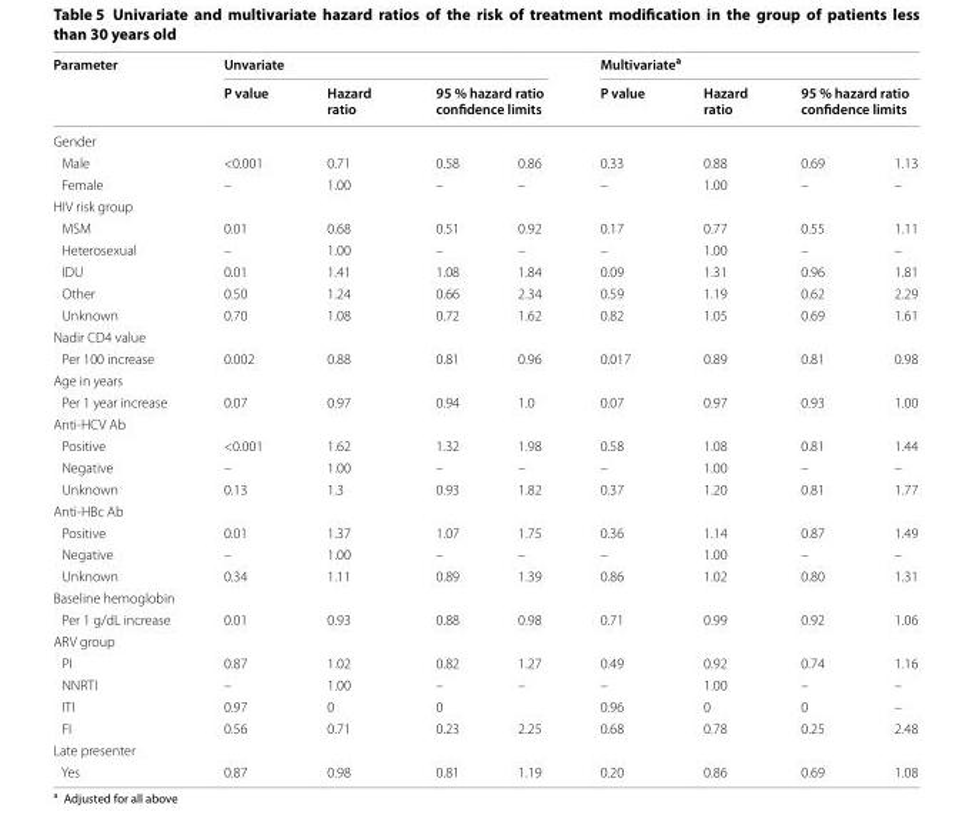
<table><thead><tr><td rowspan="2">Parameter</td><td colspan="4">Unvariate</td><td colspan="4">Multivariate<sup>a</sup></td></tr><tr><td>P value</td><td>Hazard ratio</td><td colspan="2">95 % hazard ratio confidence limits</td><td>P value</td><td>Hazard ratio</td><td colspan="2">95 % hazard ratio confidence limits</td></tr><tr><td colspan="9">Gender</td></tr><tr><td>Male</td><td>&lt;0.001</td><td>0.71</td><td>0.58</td><td>0.86</td><td>0.33</td><td>0.88</td><td>0.69</td><td>1.13</td></tr></thead><tbody><tr><td>Female</td><td>–</td><td>1.00</td><td>–</td><td>–</td><td>–</td><td>1.00</td><td>–</td><td>–</td></tr><tr><td colspan="9">HIV risk group</td></tr><tr><td>MSM</td><td>0.01</td><td>0.68</td><td>0.51</td><td>0.92</td><td>0.17</td><td>0.77</td><td>0.55</td><td>1.11</td></tr><tr><td>Heterosexual</td><td>–</td><td>1.00</td><td>–</td><td>–</td><td>–</td><td>1.00</td><td>–</td><td>–</td></tr><tr><td>IDU</td><td>0.01</td><td>1.41</td><td>1.08</td><td>1.84</td><td>0.09</td><td>1.31</td><td>0.96</td><td>1.81</td></tr><tr><td>Other</td><td>0.50</td><td>1.24</td><td>0.66</td><td>2.34</td><td>0.59</td><td>1.19</td><td>0.62</td><td>2.29</td></tr><tr><td>Unknown</td><td>0.70</td><td>1.08</td><td>0.72</td><td>1.62</td><td>0.82</td><td>1.05</td><td>0.69</td><td>1.61</td></tr><tr><td colspan="9">Nadir CD4 value</td></tr><tr><td>Per 100 increase</td><td>0.002</td><td>0.88</td><td>0.81</td><td>0.96</td><td>0.017</td><td>0.89</td><td>0.81</td><td>0.98</td></tr><tr><td colspan="9">Age in years</td></tr><tr><td>Per 1 year increase</td><td>0.07</td><td>0.97</td><td>0.94</td><td>1.0</td><td>0.07</td><td>0.97</td><td>0.93</td><td>1.00</td></tr><tr><td colspan="9">Anti‑HCV Ab</td></tr><tr><td>Positive</td><td>&lt;0.001</td><td>1.62</td><td>1.32</td><td>1.98</td><td>0.58</td><td>1.08</td><td>0.81</td><td>1.44</td></tr><tr><td>Negative</td><td>–</td><td>1.00</td><td>–</td><td>–</td><td>–</td><td>1.00</td><td>–</td><td>–</td></tr><tr><td>Unknown</td><td>0.13</td><td>1.3</td><td>0.93</td><td>1.82</td><td>0.37</td><td>1.20</td><td>0.81</td><td>1.77</td></tr><tr><td colspan="9">Anti‑HBc Ab</td></tr><tr><td>Positive</td><td>0.01</td><td>1.37</td><td>1.07</td><td>1.75</td><td>0.36</td><td>1.14</td><td>0.87</td><td>1.49</td></tr><tr><td>Negative</td><td>–</td><td>1.00</td><td>–</td><td>–</td><td>–</td><td>1.00</td><td>–</td><td>–</td></tr><tr><td>Unknown</td><td>0.34</td><td>1.11</td><td>0.89</td><td>1.39</td><td>0.86</td><td>1.02</td><td>0.80</td><td>1.31</td></tr><tr><td colspan="9">Baseline hemoglobin</td></tr><tr><td>Per 1 g/dL increase</td><td>0.01</td><td>0.93</td><td>0.88</td><td>0.98</td><td>0.71</td><td>0.99</td><td>0.92</td><td>1.06</td></tr><tr><td colspan="9">ARV group</td></tr><tr><td>PI</td><td>0.87</td><td>1.02</td><td>0.82</td><td>1.27</td><td>0.49</td><td>0.92</td><td>0.74</td><td>1.16</td></tr><tr><td>NNRTI</td><td>–</td><td>1.00</td><td>–</td><td>–</td><td>–</td><td>1.00</td><td>–</td><td>–</td></tr><tr><td>ITI</td><td>0.97</td><td>0</td><td>0</td><td></td><td>0.96</td><td>0</td><td>0</td><td>–</td></tr><tr><td>FI</td><td>0.56</td><td>0.71</td><td>0.23</td><td>2.25</td><td>0.68</td><td>0.78</td><td>0.25</td><td>2.48</td></tr><tr><td colspan="9">Late presenter</td></tr><tr><td>Yes</td><td>0.87</td><td>0.98</td><td>0.81</td><td>1.19</td><td>0.20</td><td>0.86</td><td>0.69</td><td>1.08</td></tr></tbody></table>